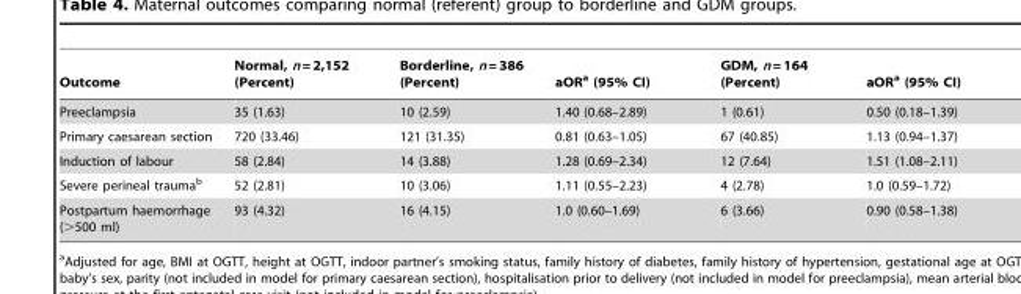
<table><thead><tr><td>Outcome</td><td>Normal, n = 2,152 (Percent)</td><td>Borderline, n = 386 (Percent)</td><td>aOR<sup>a</sup> (95% CI)</td><td>GDM, n = 164 (Percent)</td><td>aOR<sup>a</sup> (95% CI)</td></tr></thead><tbody><tr><td>Preeclampsia</td><td>35 (1.63)</td><td>10 (2.59)</td><td>1.40 (0.68–2.89)</td><td>1 (0.61)</td><td>0.50 (0.18–1.39)</td></tr><tr><td>Primary caesarean section</td><td>720 (33.46)</td><td>121 (31.35)</td><td>0.81 (0.63–1.05)</td><td>67 (40.85)</td><td>1.13 (0.94–1.37)</td></tr><tr><td>Induction of labour</td><td>58 (2.84)</td><td>14 (3.88)</td><td>1.28 (0.69–2.34)</td><td>12 (7.64)</td><td>1.51 (1.08–2.11)</td></tr><tr><td>Severe perineal trauma<sup>b</sup></td><td>52 (2.81)</td><td>10 (3.06)</td><td>1.11 (0.55–2.23)</td><td>4 (2.78)</td><td>1.0 (0.59–1.72)</td></tr><tr><td>Postpartum haemorrhage (&gt;500 ml)</td><td>93 (4.32)</td><td>16 (4.15)</td><td>1.0 (0.60–1.69)</td><td>6 (3.66)</td><td>0.90 (0.58–1.38)</td></tr></tbody></table>